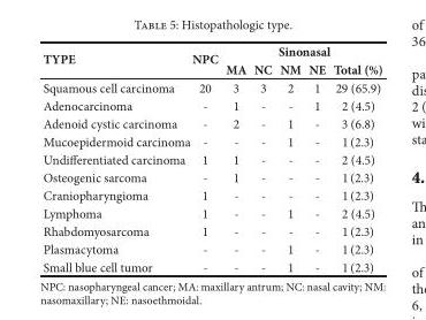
<table><thead><tr><td rowspan="2">TYPE</td><td rowspan="2">NPC</td><td colspan="5">Sinonasal</td></tr><tr><td>MA</td><td>NC</td><td>NM</td><td>NE</td><td>Total (%)</td></tr></thead><tbody><tr><td>Squamous cell carcinoma</td><td>20</td><td>3</td><td>3</td><td>2</td><td>1</td><td>29 (65.9)</td></tr><tr><td>Adenocarcinoma</td><td>-</td><td>1</td><td>-</td><td>-</td><td>1</td><td>2 (4.5)</td></tr><tr><td>Adenoid cystic carcinoma</td><td>-</td><td>2</td><td>-</td><td>1</td><td>-</td><td>3 (6.8)</td></tr><tr><td>Mucoepidermoid carcinoma</td><td>-</td><td>-</td><td>-</td><td>1</td><td>-</td><td>1 (2.3)</td></tr><tr><td>Undifferentiated carcinoma</td><td>1</td><td>1</td><td>-</td><td>-</td><td>-</td><td>2 (4.5)</td></tr><tr><td>Osteogenic sarcoma</td><td>-</td><td>1</td><td>-</td><td>-</td><td>-</td><td>1 (2.3)</td></tr><tr><td>Craniopharyngioma</td><td>1</td><td>-</td><td>-</td><td>-</td><td>-</td><td>1 (2.3)</td></tr><tr><td>Lymphoma</td><td>1</td><td>-</td><td>-</td><td>1</td><td>-</td><td>2 (4.5)</td></tr><tr><td>Rhabdomyosarcoma</td><td>1</td><td>-</td><td>-</td><td>-</td><td>-</td><td>1 (2.3)</td></tr><tr><td>Plasmacytoma</td><td>-</td><td>-</td><td>-</td><td>1</td><td>-</td><td>1 (2.3)</td></tr><tr><td>Small blue cell tumor</td><td>-</td><td>-</td><td>-</td><td>1</td><td>-</td><td>1 (2.3)</td></tr></tbody></table>